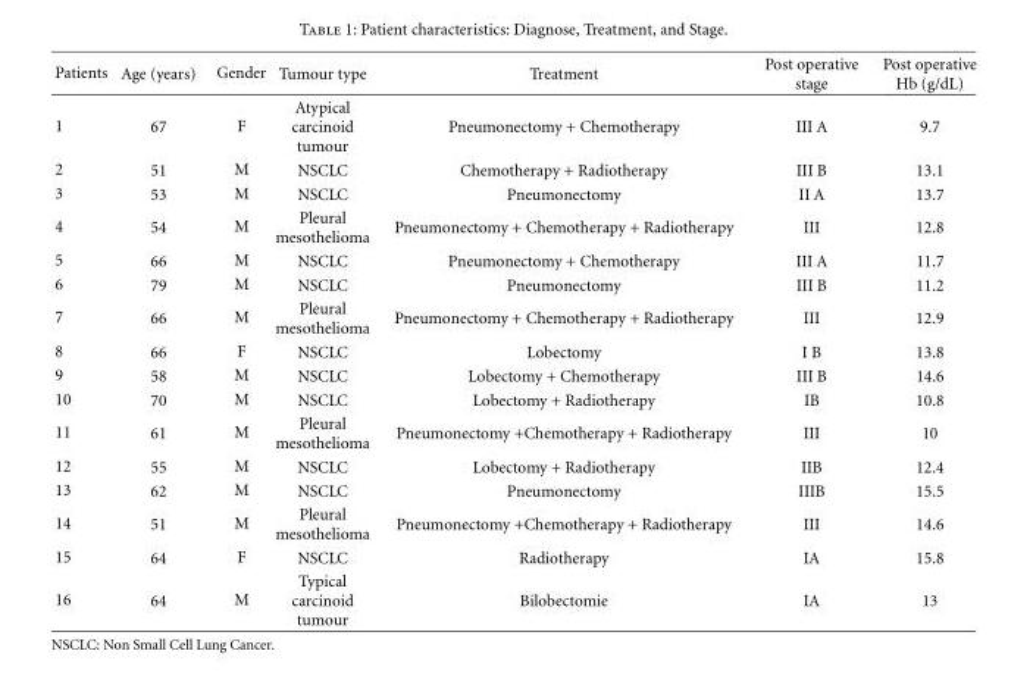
<table><thead><tr><td>Patients</td><td>Age (years)</td><td>Gender</td><td>Tumour type</td><td>Treatment</td><td>Post operative stage</td><td>Post operative Hb (g/dL)</td></tr></thead><tbody><tr><td>1</td><td>67</td><td>F</td><td>Atypical carcinoid tumour</td><td>Pneumonectomy + Chemotherapy</td><td>III A</td><td>9.7</td></tr><tr><td>2</td><td>51</td><td>M</td><td>NSCLC</td><td>Chemotherapy + Radiotherapy</td><td>III B</td><td>13.1</td></tr><tr><td>3</td><td>53</td><td>M</td><td>NSCLC</td><td>Pneumonectomy</td><td>II A</td><td>13.7</td></tr><tr><td>4</td><td>54</td><td>M</td><td>Pleural mesothelioma</td><td>Pneumonectomy + Chemotherapy + Radiotherapy</td><td>III</td><td>12.8</td></tr><tr><td>5</td><td>66</td><td>M</td><td>NSCLC</td><td>Pneumonectomy + Chemotherapy</td><td>III A</td><td>11.7</td></tr><tr><td>6</td><td>79</td><td>M</td><td>NSCLC</td><td>Pneumonectomy</td><td>III B</td><td>11.2</td></tr><tr><td>7</td><td>66</td><td>M</td><td>Pleural mesothelioma</td><td>Pneumonectomy + Chemotherapy + Radiotherapy</td><td>III</td><td>12.9</td></tr><tr><td>8</td><td>66</td><td>F</td><td>NSCLC</td><td>Lobectomy</td><td>I B</td><td>13.8</td></tr><tr><td>9</td><td>58</td><td>M</td><td>NSCLC</td><td>Lobectomy + Chemotherapy</td><td>III B</td><td>14.6</td></tr><tr><td>10</td><td>70</td><td>M</td><td>NSCLC</td><td>Lobectomy + Radiotherapy</td><td>IB</td><td>10.8</td></tr><tr><td>11</td><td>61</td><td>M</td><td>Pleural mesothelioma</td><td>Pneumonectomy +Chemotherapy + Radiotherapy</td><td>III</td><td>10</td></tr><tr><td>12</td><td>55</td><td>M</td><td>NSCLC</td><td>Lobectomy + Radiotherapy</td><td>IIB</td><td>12.4</td></tr><tr><td>13</td><td>62</td><td>M</td><td>NSCLC</td><td>Pneumonectomy</td><td>IIIB</td><td>15.5</td></tr><tr><td>14</td><td>51</td><td>M</td><td>Pleural mesothelioma</td><td>Pneumonectomy +Chemotherapy + Radiotherapy</td><td>III</td><td>14.6</td></tr><tr><td>15</td><td>64</td><td>F</td><td>NSCLC</td><td>Radiotherapy</td><td>IA</td><td>15.8</td></tr><tr><td>16</td><td>64</td><td>M</td><td>Typical carcinoid tumour</td><td>Bilobectomie</td><td>IA</td><td>13</td></tr></tbody></table>